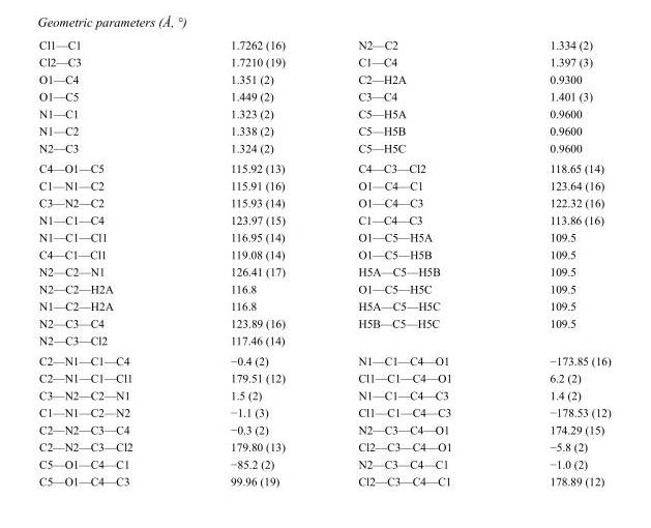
<table><tbody><tr><td>Cl1—C1</td><td>1.7262 (16)</td><td>N2—C2</td><td>1.334 (2)</td></tr><tr><td>Cl2—C3</td><td>1.7210 (19)</td><td>C1—C4</td><td>1.397 (3)</td></tr><tr><td>O1—C4</td><td>1.351 (2)</td><td>C2—H2A</td><td>0.9300</td></tr><tr><td>O1—C5</td><td>1.449 (2)</td><td>C3—C4</td><td>1.401 (3)</td></tr><tr><td>N1—C1</td><td>1.323 (2)</td><td>C5—H5A</td><td>0.9600</td></tr><tr><td>N1—C2</td><td>1.338 (2)</td><td>C5—H5B</td><td>0.9600</td></tr><tr><td>N2—C3</td><td>1.324 (2)</td><td>C5—H5C</td><td>0.9600</td></tr><tr><td>C4—O1—C5</td><td>115.92 (13)</td><td>C4—C3—Cl2</td><td>118.65 (14)</td></tr><tr><td>C1—N1—C2</td><td>115.91 (16)</td><td>O1—C4—C1</td><td>123.64 (16)</td></tr><tr><td>C3—N2—C2</td><td>115.93 (14)</td><td>O1—C4—C3</td><td>122.32 (16)</td></tr><tr><td>N1—C1—C4</td><td>123.97 (15)</td><td>C1—C4—C3</td><td>113.86 (16)</td></tr><tr><td>N1—C1—Cl1</td><td>116.95 (14)</td><td>O1—C5—H5A</td><td>109.5</td></tr><tr><td>C4—C1—Cl1</td><td>119.08 (14)</td><td>O1—C5—H5B</td><td>109.5</td></tr><tr><td>N2—C2—N1</td><td>126.41 (17)</td><td>H5A—C5—H5B</td><td>109.5</td></tr><tr><td>N2—C2—H2A</td><td>116.8</td><td>O1—C5—H5C</td><td>109.5</td></tr><tr><td>N1—C2—H2A</td><td>116.8</td><td>H5A—C5—H5C</td><td>109.5</td></tr><tr><td>N2—C3—C4</td><td>123.89 (16)</td><td>H5B—C5—H5C</td><td>109.5</td></tr><tr><td>N2—C3—Cl2</td><td>117.46 (14)</td><td></td><td></td></tr><tr><td>C2—N1—C1—C4</td><td>−0.4 (2)</td><td>N1—C1—C4—O1</td><td>−173.85 (16)</td></tr><tr><td>C2—N1—C1—Cl1</td><td>179.51 (12)</td><td>Cl1—C1—C4—O1</td><td>6.2 (2)</td></tr><tr><td>C3—N2—C2—N1</td><td>1.5 (2)</td><td>N1—C1—C4—C3</td><td>1.4 (2)</td></tr><tr><td>C1—N1—C2—N2</td><td>−1.1 (3)</td><td>Cl1—C1—C4—C3</td><td>−178.53 (12)</td></tr><tr><td>C2—N2—C3—C4</td><td>−0.3 (2)</td><td>N2—C3—C4—O1</td><td>174.29 (15)</td></tr><tr><td>C2—N2—C3—Cl2</td><td>179.80 (13)</td><td>Cl2—C3—C4—O1</td><td>−5.8 (2)</td></tr><tr><td>C5—O1—C4—C1</td><td>−85.2 (2)</td><td>N2—C3—C4—C1</td><td>−1.0 (2)</td></tr><tr><td>C5—O1—C4—C3</td><td>99.96 (19)</td><td>Cl2—C3—C4—C1</td><td>178.89 (12)</td></tr></tbody></table>